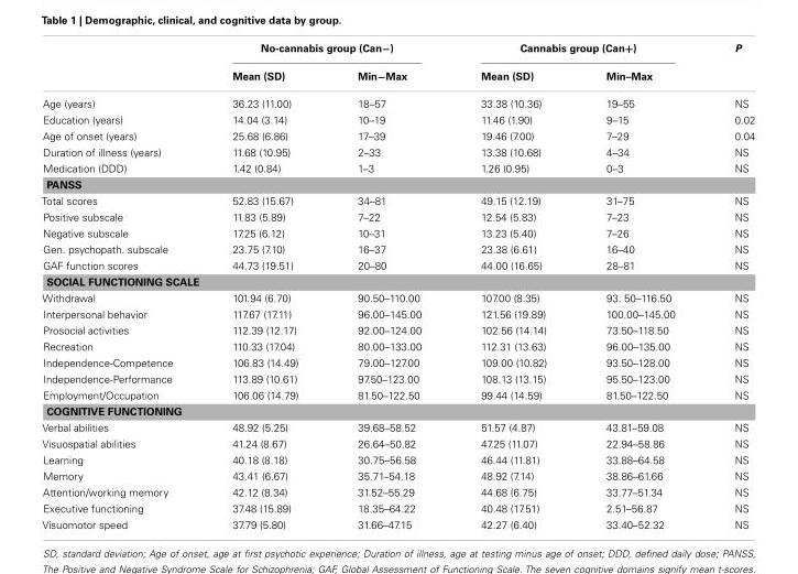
<table><thead><tr><td rowspan="2"></td><td colspan="2">No-cannabis group (Can−)</td><td colspan="2">Cannabis group (Can+)</td><td rowspan="2">P</td></tr><tr><td>Mean (SD)</td><td>Min−Max</td><td>Mean (SD)</td><td>Min–Max</td></tr></thead><tbody><tr><td>Age (years)</td><td>36.23 (11.00)</td><td>18–57</td><td>33.38 (10.36)</td><td>19–55</td><td>NS</td></tr><tr><td>Education (years)</td><td>14.04 (3.14)</td><td>10–19</td><td>11.46 (1.90)</td><td>9–15</td><td>0.02</td></tr><tr><td>Age of onset (years)</td><td>25.68 (6.86)</td><td>17–39</td><td>19.46 (7.00)</td><td>7–29</td><td>0.04</td></tr><tr><td>Duration of illness (years)</td><td>11.68 (10.95)</td><td>2–33</td><td>13.38 (10.68)</td><td>4–34</td><td>NS</td></tr><tr><td>Medication (DDD)</td><td>1.42 (0.84)</td><td>1–3</td><td>1.26 (0.95)</td><td>0–3</td><td>NS</td></tr><tr><td colspan="6">PANSS</td></tr><tr><td>Total scores</td><td>52.83 (15.67)</td><td>34–81</td><td>49.15 (12.19)</td><td>31–75</td><td>NS</td></tr><tr><td>Positive subscale</td><td>11.83 (5.89)</td><td>7–22</td><td>12.54 (5.83)</td><td>7–23</td><td>NS</td></tr><tr><td>Negative subscale</td><td>17.25 (6.12)</td><td>10–31</td><td>13.23 (5.40)</td><td>7–26</td><td>NS</td></tr><tr><td>Gen. psychopath. subscale</td><td>23.75 (7.10)</td><td>16–37</td><td>23.38 (6.61)</td><td>16–40</td><td>NS</td></tr><tr><td>GAF function scores</td><td>44.73 (19.51)</td><td>20–80</td><td>44.00 (16.65)</td><td>28–81</td><td>NS</td></tr><tr><td colspan="6">SOCIAL FUNCTIONING SCALE</td></tr><tr><td>Withdrawal</td><td>101.94 (6.70)</td><td>90.50–110.00</td><td>107.00 (8.35)</td><td>93. 50–116.50</td><td>NS</td></tr><tr><td>Interpersonal behavior</td><td>117.67 (17.11)</td><td>96.00–145.00</td><td>121.56 (19.89)</td><td>100.00–145.00</td><td>NS</td></tr><tr><td>Prosocial activities</td><td>112.39 (12.17)</td><td>92.00–124.00</td><td>102.56 (14.14)</td><td>73.50–118.50</td><td>NS</td></tr><tr><td>Recreation</td><td>110.33 (17.04)</td><td>80.00–133.00</td><td>112.31 (13.63)</td><td>96.00–135.00</td><td>NS</td></tr><tr><td>Independence-Competence</td><td>106.83 (14.49)</td><td>79.00–127.00</td><td>109.00 (10.82)</td><td>93.50–128.00</td><td>NS</td></tr><tr><td>Independence-Performance</td><td>113.89 (10.61)</td><td>97.50–123.00</td><td>108.13 (13.15)</td><td>95.50–123.00</td><td>NS</td></tr><tr><td>Employment/Occupation</td><td>106.06 (14.79)</td><td>81.50–122.50</td><td>99.44 (14.59)</td><td>81.50–122.50</td><td>NS</td></tr><tr><td colspan="6">COGNITIVE FUNCTIONING</td></tr><tr><td>Verbal abilities</td><td>48.92 (5.25)</td><td>39.68–58.52</td><td>51.57 (4.87)</td><td>43.81–59.08</td><td>NS</td></tr><tr><td>Visuospatial abilities</td><td>41.24 (8.67)</td><td>26.64–50.82</td><td>47.25 (11.07)</td><td>22.94–58.86</td><td>NS</td></tr><tr><td>Learning</td><td>40.18 (8.18)</td><td>30.75–56.58</td><td>46.44 (11.81)</td><td>33.88–64.58</td><td>NS</td></tr><tr><td>Memory</td><td>43.41 (6.67)</td><td>35.71–54.18</td><td>48.92 (7.14)</td><td>38.86–61.66</td><td>NS</td></tr><tr><td>Attention/working memory</td><td>42.12 (8.34)</td><td>31.52–55.29</td><td>44.68 (6.75)</td><td>33.77–51.34</td><td>NS</td></tr><tr><td>Executive functioning</td><td>37.48 (15.89)</td><td>18.35–64.22</td><td>40.48 (17.51)</td><td>2.51–56.87</td><td>NS</td></tr><tr><td>Visuomotor speed</td><td>37.79 (5.80)</td><td>31.66–47.15</td><td>42.27 (6.40)</td><td>33.40–52.32</td><td>NS</td></tr></tbody></table>